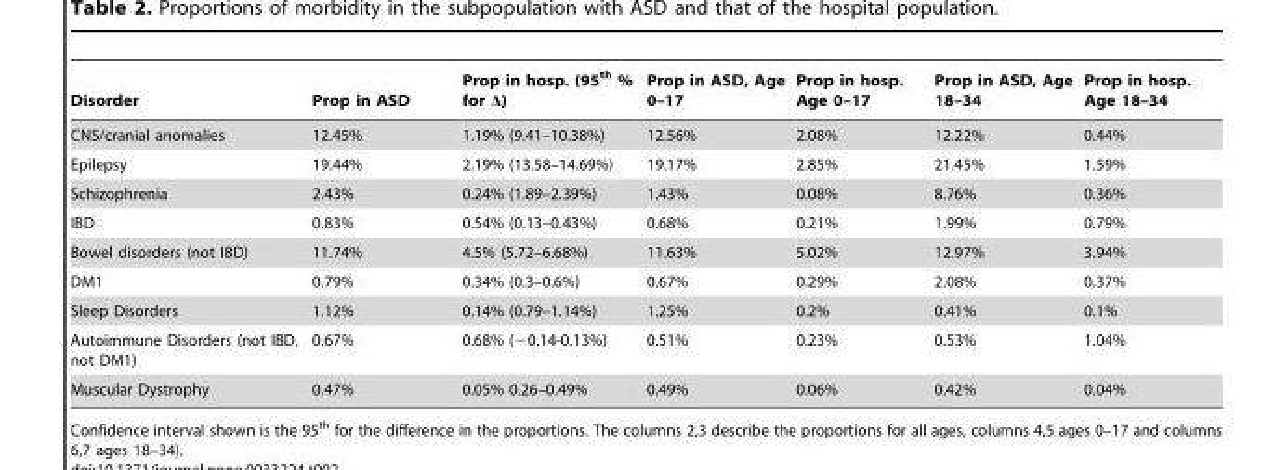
<table><thead><tr><td>Disorder</td><td>Prop in ASD</td><td>Prop in hosp. (95<sup>th</sup> % for Δ)</td><td>Prop in ASD, Age 0–17</td><td>Prop in hosp. Age 0–17</td><td>Prop in ASD, Age 18–34</td><td>Prop in hosp. Age 18–34</td></tr></thead><tbody><tr><td>CNS/cranial anomalies</td><td>12.45%</td><td>1.19% (9.41–10.38%)</td><td>12.56%</td><td>2.08%</td><td>12.22%</td><td>0.44%</td></tr><tr><td>Epilepsy</td><td>19.44%</td><td>2.19% (13.58–14.69%)</td><td>19.17%</td><td>2.85%</td><td>21.45%</td><td>1.59%</td></tr><tr><td>Schizophrenia</td><td>2.43%</td><td>0.24% (1.89–2.39%)</td><td>1.43%</td><td>0.08%</td><td>8.76%</td><td>0.36%</td></tr><tr><td>IBD</td><td>0.83%</td><td>0.54% (0.13–0.43%)</td><td>0.68%</td><td>0.21%</td><td>1.99%</td><td>0.79%</td></tr><tr><td>Bowel disorders (not IBD)</td><td>11.74%</td><td>4.5% (5.72–6.68%)</td><td>11.63%</td><td>5.02%</td><td>12.97%</td><td>3.94%</td></tr><tr><td>DM1</td><td>0.79%</td><td>0.34% (0.3–0.6%)</td><td>0.67%</td><td>0.29%</td><td>2.08%</td><td>0.37%</td></tr><tr><td>Sleep Disorders</td><td>1.12%</td><td>0.14% (0.79–1.14%)</td><td>1.25%</td><td>0.2%</td><td>0.41%</td><td>0.1%</td></tr><tr><td>Autoimmune Disorders (not IBD, not DM1)</td><td>0.67%</td><td>0.68% (−0.14-0.13%)</td><td>0.51%</td><td>0.23%</td><td>0.53%</td><td>1.04%</td></tr><tr><td>Muscular Dystrophy</td><td>0.47%</td><td>0.05% 0.26–0.49%</td><td>0.49%</td><td>0.06%</td><td>0.42%</td><td>0.04%</td></tr></tbody></table>